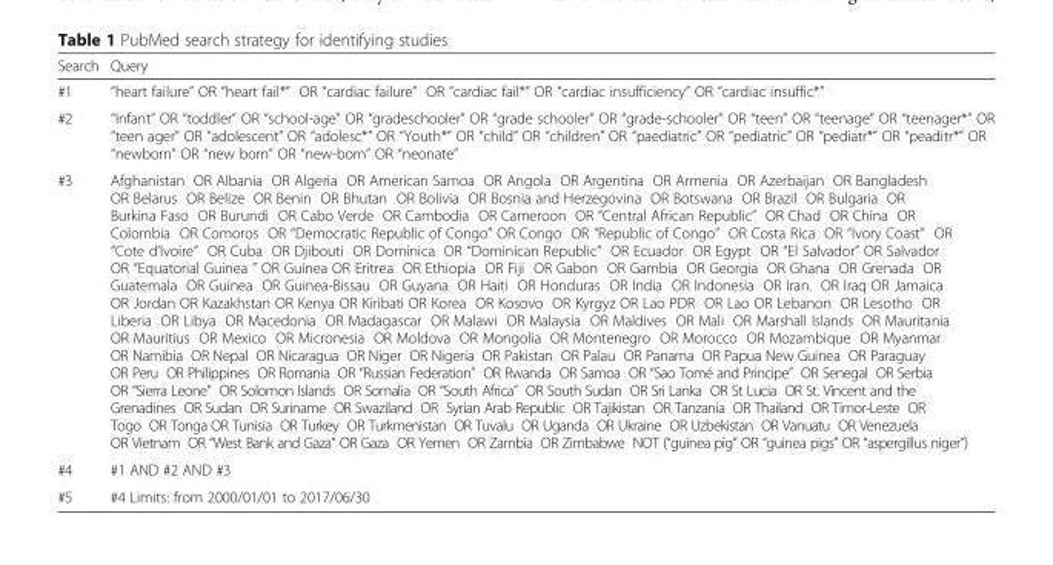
<table><thead><tr><td>Search</td><td>Query</td></tr></thead><tbody><tr><td>#1</td><td>“heart failure” OR “heart fail*” OR “cardiac failure” OR “cardiac fail*” OR “cardiac insufficiency” OR “cardiac insuffic*”</td></tr><tr><td>#2</td><td>“Infant” OR “toddler” OR “school-age” OR “gradeschooler” OR “grade schooler” OR “grade-schooler” OR “teen” OR “teenage” OR “teenager*” OR “teen ager” OR “adolescent” OR “adolesc*” OR “Youth*” OR “child” OR “children” OR “paediatric” OR “pediatric” OR “pediatr*” OR “peaditr*” OR “newborn” OR “new born” OR “new-born” OR “neonate”</td></tr><tr><td>#3</td><td>Afghanistan OR Albania OR Algeria OR American Samoa OR Angola OR Argentina OR Armenia OR Azerbaijan OR Bangladesh OR Belarus OR Belize OR Benin OR Bhutan OR Bolivia OR Bosnia and Herzegovina OR Botswana OR Brazil OR Bulgaria OR Burkina Faso OR Burundi OR Cabo Verde OR Cambodia OR Cameroon OR “Central African Republic” OR Chad OR China OR Colombia OR Comoros OR “Democratic Republic of Congo” OR Congo OR “Republic of Congo” OR Costa Rica OR “Ivory Coast” OR “Cote d’Ivoire” OR Cuba OR Djibouti OR Dominica OR “Dominican Republic” OR Ecuador OR Egypt OR “El Salvador” OR Salvador OR “Equatorial Guinea ” OR Guinea OR Eritrea OR Ethiopia OR Fiji OR Gabon OR Gambia OR Georgia OR Ghana OR Grenada OR Guatemala OR Guinea OR Guinea-Bissau OR Guyana OR Haiti OR Honduras OR India OR Indonesia OR Iran. OR Iraq OR Jamaica OR Jordan OR Kazakhstan OR Kenya OR Kiribati OR Korea OR Kosovo OR Kyrgyz OR Lao PDR OR Lao OR Lebanon OR Lesotho OR Liberia OR Libya OR Macedonia OR Madagascar OR Malawi OR Malaysia OR Maldives OR Mali OR Marshall Islands OR Mauritania OR Mauritius OR Mexico OR Micronesia OR Moldova OR Mongolia OR Montenegro OR Morocco OR Mozambique OR Myanmar OR Namibia OR Nepal OR Nicaragua OR Niger OR Nigeria OR Pakistan OR Palau OR Panama OR Papua New Guinea OR Paraguay OR Peru OR Philippines OR Romania OR “Russian Federation” OR Rwanda OR Samoa OR “Sao Tomé and Principe” OR Senegal OR Serbia OR “Sierra Leone” OR Solomon Islands OR Somalia OR “South Africa” OR South Sudan OR Sri Lanka OR St Lucia OR St. Vincent and the Grenadines OR Sudan OR Suriname OR Swaziland OR Syrian Arab Republic OR Tajikistan OR Tanzania OR Thailand OR Timor-Leste OR Togo OR Tonga OR Tunisia OR Turkey OR Turkmenistan OR Tuvalu OR Uganda OR Ukraine OR Uzbekistan OR Vanuatu OR Venezuela OR Vietnam OR “West Bank and Gaza” OR Gaza OR Yemen OR Zambia OR Zimbabwe NOT (“guinea pig” OR “guinea pigs” OR “aspergillus niger”)</td></tr><tr><td>#4</td><td>#1 AND #2 AND #3</td></tr><tr><td>#5</td><td>#4 Limits: from 2000/01/01 to 2017/06/30</td></tr></tbody></table>